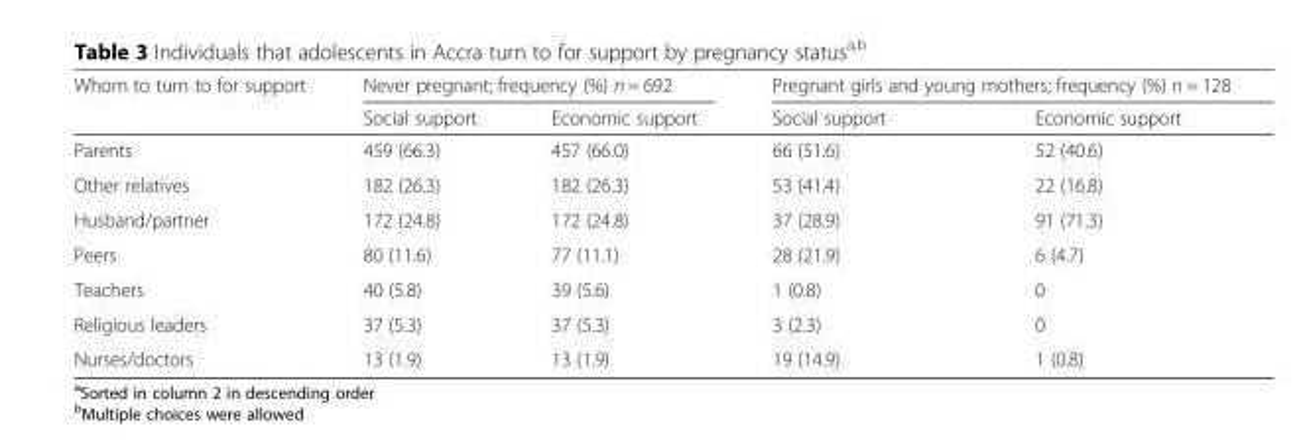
<table><thead><tr><td rowspan="2">Whom to turn to for support</td><td colspan="2">Never pregnant; frequency (%) n = 692</td><td colspan="2">Pregnant girls and young mothers; frequency (%) n = 128</td></tr><tr><td>Social support</td><td>Economic support</td><td>Social support</td><td>Economic support</td></tr></thead><tbody><tr><td>Parents</td><td>459 (66.3)</td><td>457 (66.0)</td><td>66 (51.6)</td><td>52 (40.6)</td></tr><tr><td>Other relatives</td><td>182 (26.3)</td><td>182 (26.3)</td><td>53 (41.4)</td><td>22 (16.8)</td></tr><tr><td>Husband/partner</td><td>172 (24.8)</td><td>172 (24.8)</td><td>37 (28.9)</td><td>91 (71.3)</td></tr><tr><td>Peers</td><td>80 (11.6)</td><td>77 (11.1)</td><td>28 (21.9)</td><td>6 (4.7)</td></tr><tr><td>Teachers</td><td>40 (5.8)</td><td>39 (5.6)</td><td>1 (0.8)</td><td>0</td></tr><tr><td>Religious leaders</td><td>37 (5.3)</td><td>37 (5.3)</td><td>3 (2.3)</td><td>0</td></tr><tr><td>Nurses/doctors</td><td>13 (1.9)</td><td>13 (1.9)</td><td>19 (14.9)</td><td>1 (0.8)</td></tr></tbody></table>